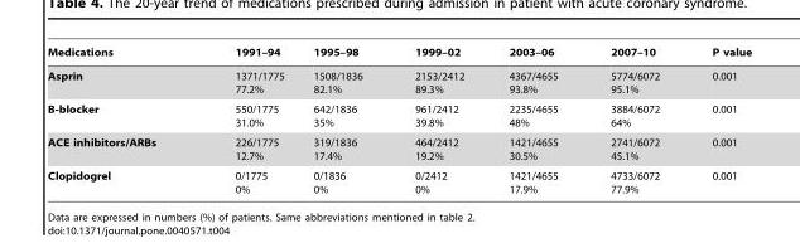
<table><thead><tr><td>Medications</td><td>1991–94</td><td>1995–98</td><td>1999–02</td><td>2003–06</td><td>2007–10</td><td>P value</td></tr></thead><tbody><tr><td>Asprin</td><td>1371/1775 77.2%</td><td>1508/1836 82.1%</td><td>2153/2412 89.3%</td><td>4367/4655 93.8%</td><td>5774/6072 95.1%</td><td>0.001</td></tr><tr><td>B-blocker</td><td>550/1775 31.0%</td><td>642/1836 35%</td><td>961/2412 39.8%</td><td>2235/4655 48%</td><td>3884/6072 64%</td><td>0.001</td></tr><tr><td>ACE inhibitors/ARBs</td><td>226/1775 12.7%</td><td>319/1836 17.4%</td><td>464/2412 19.2%</td><td>1421/4655 30.5%</td><td>2741/6072 45.1%</td><td>0.001</td></tr><tr><td>Clopidogrel</td><td>0/1775 0%</td><td>0/1836 0%</td><td>0/2412 0%</td><td>1421/4655 17.9%</td><td>4733/6072 77.9%</td><td>0.001</td></tr></tbody></table>